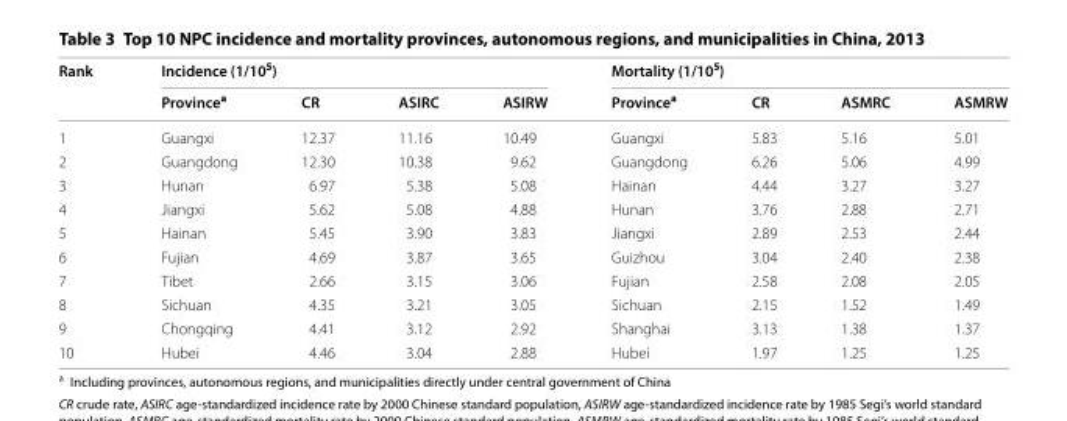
<table><thead><tr><td rowspan="2">Rank</td><td colspan="4">Incidence (1/10<sup>5</sup>)</td><td colspan="4">Mortality (1/10<sup>5</sup>)</td></tr><tr><td>Province<sup>a</sup></td><td>CR</td><td>ASIRC</td><td>ASIRW</td><td>Province<sup>a</sup></td><td>CR</td><td>ASMRC</td><td>ASMRW</td></tr></thead><tbody><tr><td>1</td><td>Guangxi</td><td>12.37</td><td>11.16</td><td>10.49</td><td>Guangxi</td><td>5.83</td><td>5.16</td><td>5.01</td></tr><tr><td>2</td><td>Guangdong</td><td>12.30</td><td>10.38</td><td>9.62</td><td>Guangdong</td><td>6.26</td><td>5.06</td><td>4.99</td></tr><tr><td>3</td><td>Hunan</td><td>6.97</td><td>5.38</td><td>5.08</td><td>Hainan</td><td>4.44</td><td>3.27</td><td>3.27</td></tr><tr><td>4</td><td>Jiangxi</td><td>5.62</td><td>5.08</td><td>4.88</td><td>Hunan</td><td>3.76</td><td>2.88</td><td>2.71</td></tr><tr><td>5</td><td>Hainan</td><td>5.45</td><td>3.90</td><td>3.83</td><td>Jiangxi</td><td>2.89</td><td>2.53</td><td>2.44</td></tr><tr><td>6</td><td>Fujian</td><td>4.69</td><td>3.87</td><td>3.65</td><td>Guizhou</td><td>3.04</td><td>2.40</td><td>2.38</td></tr><tr><td>7</td><td>Tibet</td><td>2.66</td><td>3.15</td><td>3.06</td><td>Fujian</td><td>2.58</td><td>2.08</td><td>2.05</td></tr><tr><td>8</td><td>Sichuan</td><td>4.35</td><td>3.21</td><td>3.05</td><td>Sichuan</td><td>2.15</td><td>1.52</td><td>1.49</td></tr><tr><td>9</td><td>Chongqing</td><td>4.41</td><td>3.12</td><td>2.92</td><td>Shanghai</td><td>3.13</td><td>1.38</td><td>1.37</td></tr><tr><td>10</td><td>Hubei</td><td>4.46</td><td>3.04</td><td>2.88</td><td>Hubei</td><td>1.97</td><td>1.25</td><td>1.25</td></tr></tbody></table>